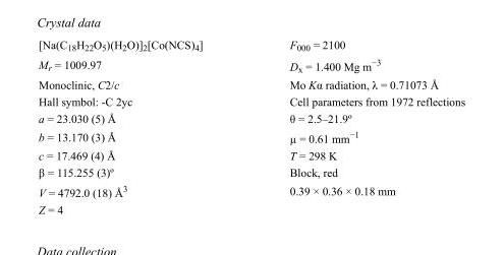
<table><tbody><tr><td>[Na(C<sub>18</sub>H<sub>22</sub>O<sub>5</sub>)(H<sub>2</sub>O)]<sub>2</sub>[Co(NCS)<sub>4</sub>]</td><td>F000 = 2100</td></tr><tr><td>M<sub>r</sub> = 1009.97</td><td>D<sub>x</sub> = 1.400 Mg m<sup>−3</sup></td></tr><tr><td>Monoclinic, C2/c</td><td>Mo Kα radiation, λ = 0.71073 Å</td></tr><tr><td>Hall symbol: -C 2yc</td><td>Cell parameters from 1972 reflections</td></tr><tr><td>a = 23.030 (5) Å</td><td>θ = 2.5–21.9º</td></tr><tr><td>b = 13.170 (3) Å</td><td>µ = 0.61 mm<sup>−1</sup></td></tr><tr><td>c = 17.469 (4) Å</td><td>T = 298 K</td></tr><tr><td>β = 115.255 (3)º</td><td>Block, red</td></tr><tr><td>V = 4792.0 (18) Å<sup>3</sup></td><td>0.39 × 0.36 × 0.18 mm</td></tr><tr><td>Z = 4</td><td></td></tr></tbody></table>